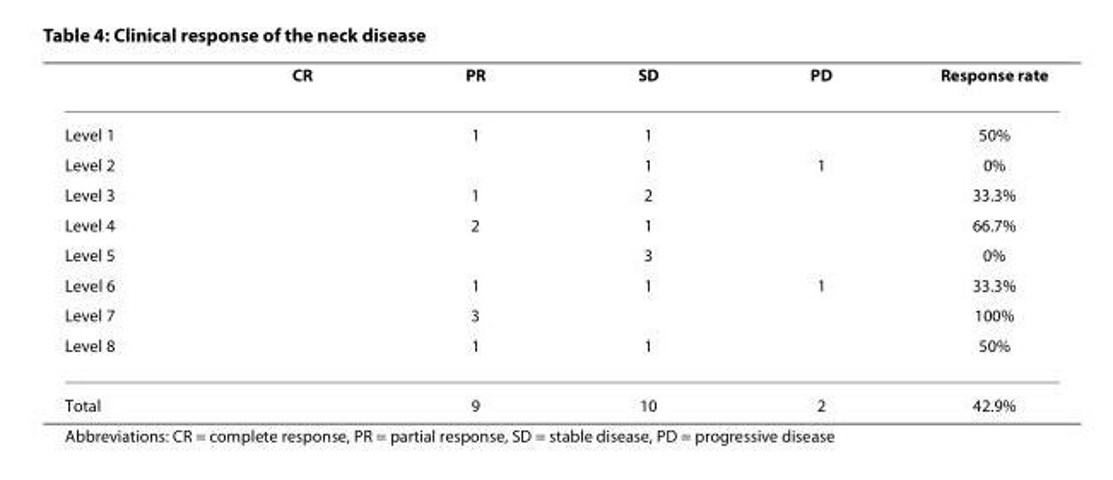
<table><thead><tr><td></td><td>CR</td><td>PR</td><td>SD</td><td>PD</td><td>Response rate</td></tr></thead><tbody><tr><td>Level 1</td><td></td><td>1</td><td>1</td><td></td><td>50%</td></tr><tr><td>Level 2</td><td></td><td></td><td>1</td><td>1</td><td>0%</td></tr><tr><td>Level 3</td><td></td><td>1</td><td>2</td><td></td><td>33.3%</td></tr><tr><td>Level 4</td><td></td><td>2</td><td>1</td><td></td><td>66.7%</td></tr><tr><td>Level 5</td><td></td><td></td><td>3</td><td></td><td>0%</td></tr><tr><td>Level 6</td><td></td><td>1</td><td>1</td><td>1</td><td>33.3%</td></tr><tr><td>Level 7</td><td></td><td>3</td><td></td><td></td><td>100%</td></tr><tr><td>Level 8</td><td></td><td>1</td><td>1</td><td></td><td>50%</td></tr><tr><td>Total</td><td></td><td>9</td><td>10</td><td>2</td><td>42.9%</td></tr></tbody></table>